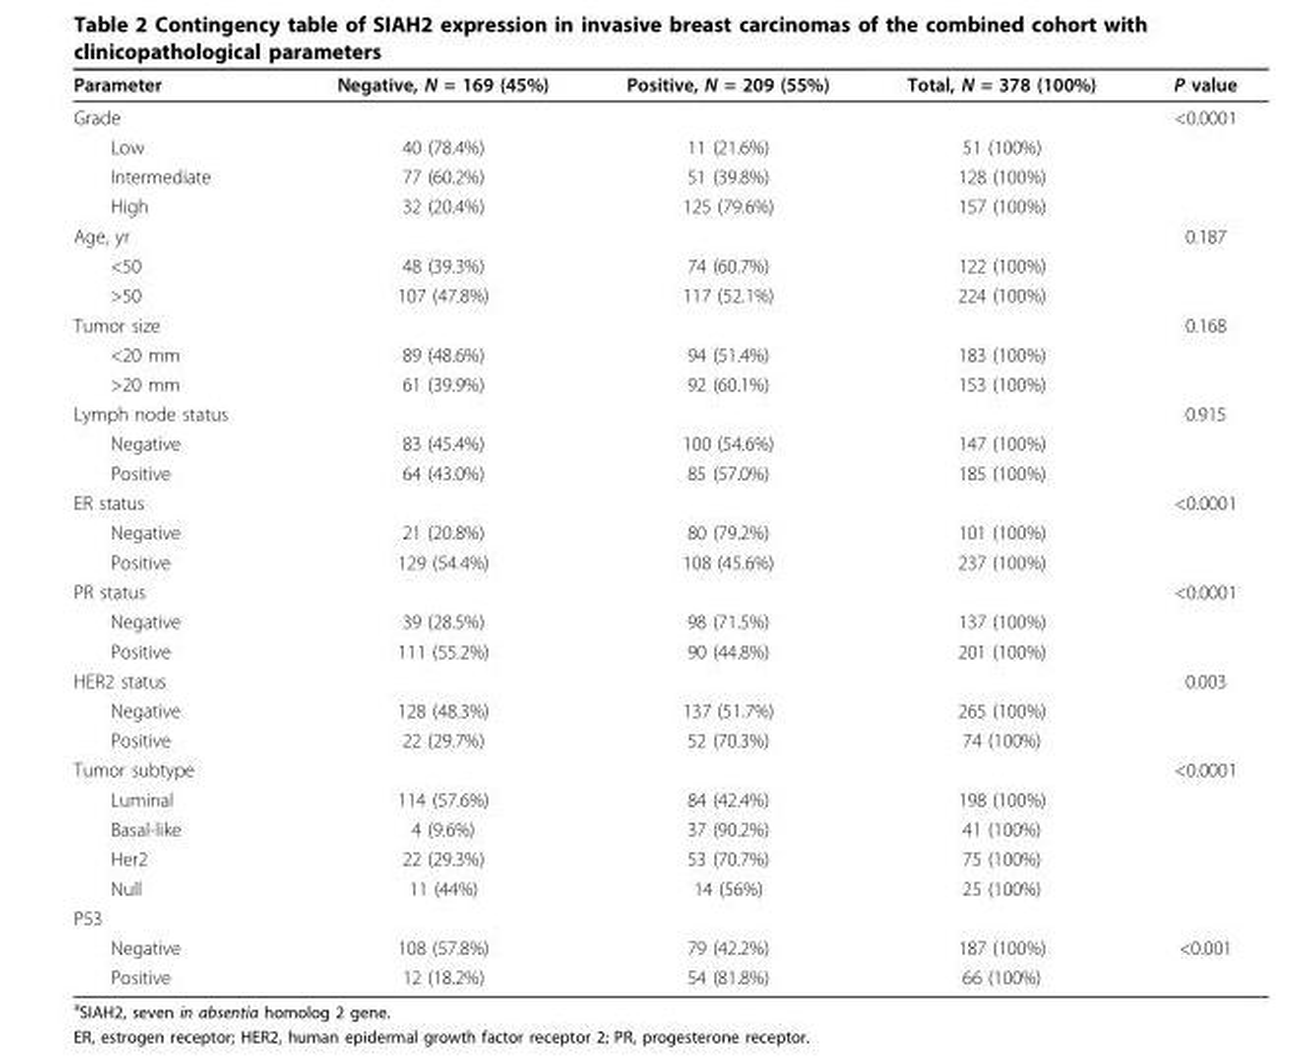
<table><thead><tr><td>Parameter</td><td>Negative, N = 169 (45%)</td><td>Positive, N = 209 (55%)</td><td>Total, N = 378 (100%)</td><td>P value</td></tr></thead><tbody><tr><td>Grade</td><td></td><td></td><td></td><td>&lt;0.0001</td></tr><tr><td>Low</td><td>40 (78.4%)</td><td>11 (21.6%)</td><td>51 (100%)</td><td></td></tr><tr><td>Intermediate</td><td>77 (60.2%)</td><td>51 (39.8%)</td><td>128 (100%)</td><td></td></tr><tr><td>High</td><td>32 (20.4%)</td><td>125 (79.6%)</td><td>157 (100%)</td><td></td></tr><tr><td>Age, yr</td><td></td><td></td><td></td><td>0.187</td></tr><tr><td>&lt;50</td><td>48 (39.3%)</td><td>74 (60.7%)</td><td>122 (100%)</td><td></td></tr><tr><td>&gt;50</td><td>107 (47.8%)</td><td>117 (52.1%)</td><td>224 (100%)</td><td></td></tr><tr><td>Tumor size</td><td></td><td></td><td></td><td>0.168</td></tr><tr><td>&lt;20 mm</td><td>89 (48.6%)</td><td>94 (51.4%)</td><td>183 (100%)</td><td></td></tr><tr><td>&gt;20 mm</td><td>61 (39.9%)</td><td>92 (60.1%)</td><td>153 (100%)</td><td></td></tr><tr><td>Lymph node status</td><td></td><td></td><td></td><td>0.915</td></tr><tr><td>Negative</td><td>83 (45.4%)</td><td>100 (54.6%)</td><td>147 (100%)</td><td></td></tr><tr><td>Positive</td><td>64 (43.0%)</td><td>85 (57.0%)</td><td>185 (100%)</td><td></td></tr><tr><td>ER status</td><td></td><td></td><td></td><td>&lt;0.0001</td></tr><tr><td>Negative</td><td>21 (20.8%)</td><td>80 (79.2%)</td><td>101 (100%)</td><td></td></tr><tr><td>Positive</td><td>129 (54.4%)</td><td>108 (45.6%)</td><td>237 (100%)</td><td></td></tr><tr><td>PR status</td><td></td><td></td><td></td><td>&lt;0.0001</td></tr><tr><td>Negative</td><td>39 (28.5%)</td><td>98 (71.5%)</td><td>137 (100%)</td><td></td></tr><tr><td>Positive</td><td>111 (55.2%)</td><td>90 (44.8%)</td><td>201 (100%)</td><td></td></tr><tr><td>HER2 status</td><td></td><td></td><td></td><td>0.003</td></tr><tr><td>Negative</td><td>128 (48.3%)</td><td>137 (51.7%)</td><td>265 (100%)</td><td></td></tr><tr><td>Positive</td><td>22 (29.7%)</td><td>52 (70.3%)</td><td>74 (100%)</td><td></td></tr><tr><td>Tumor subtype</td><td></td><td></td><td></td><td>&lt;0.0001</td></tr><tr><td>Luminal</td><td>114 (57.6%)</td><td>84 (42.4%)</td><td>198 (100%)</td><td></td></tr><tr><td>Basal-like</td><td>4 (9.6%)</td><td>37 (90.2%)</td><td>41 (100%)</td><td></td></tr><tr><td>Her2</td><td>22 (29.3%)</td><td>53 (70.7%)</td><td>75 (100%)</td><td></td></tr><tr><td>Null</td><td>11 (44%)</td><td>14 (56%)</td><td>25 (100%)</td><td></td></tr><tr><td colspan="5">P53</td></tr><tr><td>Negative</td><td>108 (57.8%)</td><td>79 (42.2%)</td><td>187 (100%)</td><td>&lt;0.001</td></tr><tr><td>Positive</td><td>12 (18.2%)</td><td>54 (81.8%)</td><td>66 (100%)</td><td></td></tr></tbody></table>